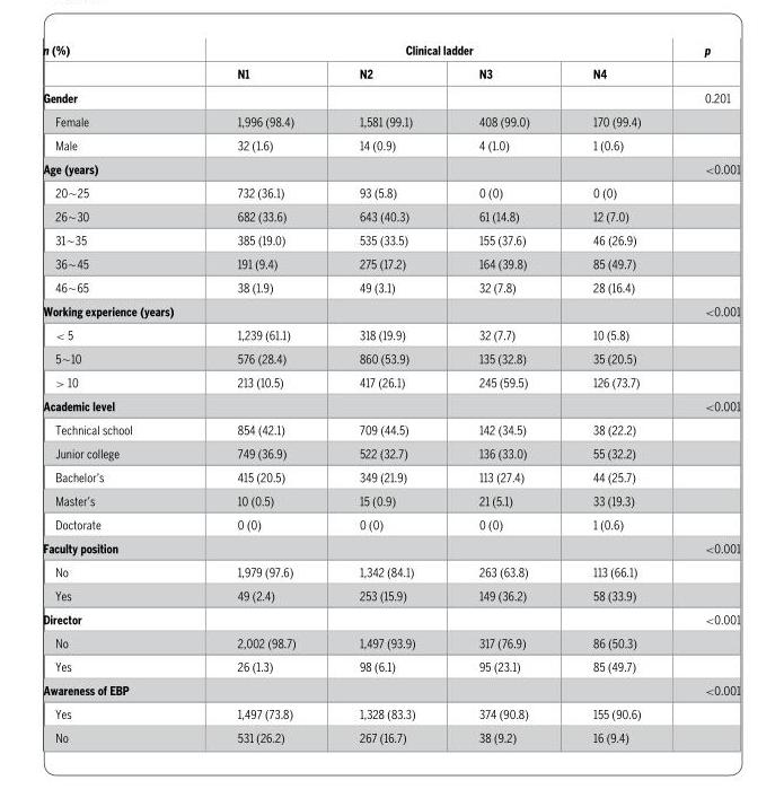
<table><thead><tr><td rowspan="2">n (%)</td><td colspan="4">Clinical ladder</td><td rowspan="2">p</td></tr><tr><td>N1</td><td>N2</td><td>N3</td><td>N4</td></tr></thead><tbody><tr><td>Gender</td><td></td><td></td><td></td><td></td><td>0.201</td></tr><tr><td>Female</td><td>1,996 (98.4)</td><td>1,581 (99.1)</td><td>408 (99.0)</td><td>170 (99.4)</td><td></td></tr><tr><td>Male</td><td>32 (1.6)</td><td>14 (0.9)</td><td>4 (1.0)</td><td>1 (0.6)</td><td></td></tr><tr><td>Age (years)</td><td></td><td></td><td></td><td></td><td>&lt;0.001</td></tr><tr><td>20∼25</td><td>732 (36.1)</td><td>93 (5.8)</td><td>0 (0)</td><td>0 (0)</td><td></td></tr><tr><td>26∼30</td><td>682 (33.6)</td><td>643 (40.3)</td><td>61 (14.8)</td><td>12 (7.0)</td><td></td></tr><tr><td>31∼35</td><td>385 (19.0)</td><td>535 (33.5)</td><td>155 (37.6)</td><td>46 (26.9)</td><td></td></tr><tr><td>36∼45</td><td>191 (9.4)</td><td>275 (17.2)</td><td>164 (39.8)</td><td>85 (49.7)</td><td></td></tr><tr><td>46∼65</td><td>38 (1.9)</td><td>49 (3.1)</td><td>32 (7.8)</td><td>28 (16.4)</td><td></td></tr><tr><td>Working experience (years)</td><td></td><td></td><td></td><td></td><td>&lt;0.001</td></tr><tr><td>&lt; 5</td><td>1,239 (61.1)</td><td>318 (19.9)</td><td>32 (7.7)</td><td>10 (5.8)</td><td></td></tr><tr><td>5∼10</td><td>576 (28.4)</td><td>860 (53.9)</td><td>135 (32.8)</td><td>35 (20.5)</td><td></td></tr><tr><td>&gt; 10</td><td>213 (10.5)</td><td>417 (26.1)</td><td>245 (59.5)</td><td>126 (73.7)</td><td></td></tr><tr><td>Academic level</td><td></td><td></td><td></td><td></td><td>&lt;0.001</td></tr><tr><td>Technical school</td><td>854 (42.1)</td><td>709 (44.5)</td><td>142 (34.5)</td><td>38 (22.2)</td><td></td></tr><tr><td>Junior college</td><td>749 (36.9)</td><td>522 (32.7)</td><td>136 (33.0)</td><td>55 (32.2)</td><td></td></tr><tr><td>Bachelor’s</td><td>415 (20.5)</td><td>349 (21.9)</td><td>113 (27.4)</td><td>44 (25.7)</td><td></td></tr><tr><td>Master’s</td><td>10 (0.5)</td><td>15 (0.9)</td><td>21 (5.1)</td><td>33 (19.3)</td><td></td></tr><tr><td>Doctorate</td><td>0 (0)</td><td>0 (0)</td><td>0 (0)</td><td>1 (0.6)</td><td></td></tr><tr><td>Faculty position</td><td></td><td></td><td></td><td></td><td>&lt;0.001</td></tr><tr><td>No</td><td>1,979 (97.6)</td><td>1,342 (84.1)</td><td>263 (63.8)</td><td>113 (66.1)</td><td></td></tr><tr><td>Yes</td><td>49 (2.4)</td><td>253 (15.9)</td><td>149 (36.2)</td><td>58 (33.9)</td><td></td></tr><tr><td>Director</td><td></td><td></td><td></td><td></td><td>&lt;0.001</td></tr><tr><td>No</td><td>2,002 (98.7)</td><td>1,497 (93.9)</td><td>317 (76.9)</td><td>86 (50.3)</td><td></td></tr><tr><td>Yes</td><td>26 (1.3)</td><td>98 (6.1)</td><td>95 (23.1)</td><td>85 (49.7)</td><td></td></tr><tr><td>Awareness of EBP</td><td></td><td></td><td></td><td></td><td>&lt;0.001</td></tr><tr><td>Yes</td><td>1,497 (73.8)</td><td>1,328 (83.3)</td><td>374 (90.8)</td><td>155 (90.6)</td><td></td></tr><tr><td>No</td><td>531 (26.2)</td><td>267 (16.7)</td><td>38 (9.2)</td><td>16 (9.4)</td><td></td></tr></tbody></table>